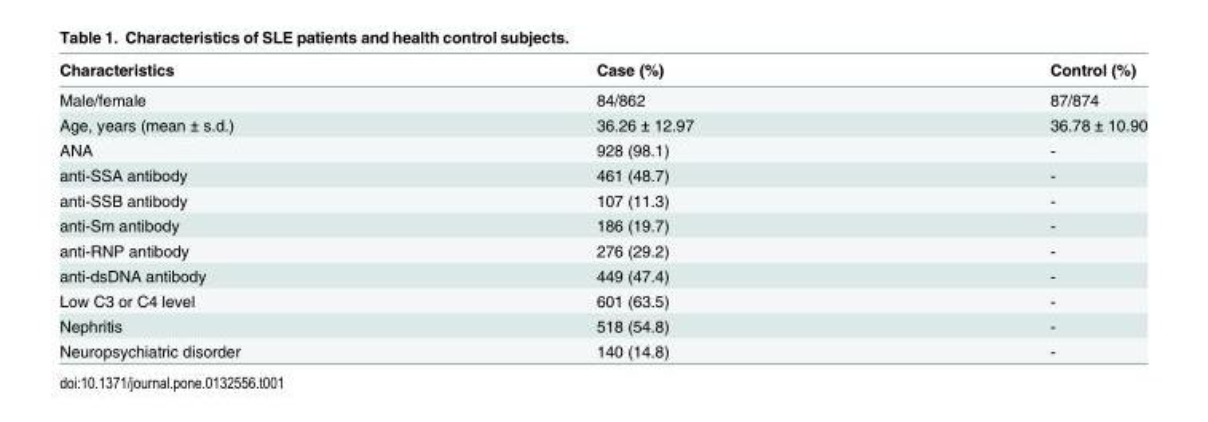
<table><thead><tr><td>Characteristics</td><td>Case (%)</td><td>Control (%)</td></tr></thead><tbody><tr><td>Male/female</td><td>84/862</td><td>87/874</td></tr><tr><td>Age, years (mean ± s.d.)</td><td>36.26 ± 12.97</td><td>36.78 ± 10.90</td></tr><tr><td>ANA</td><td>928 (98.1)</td><td>-</td></tr><tr><td>anti-SSA antibody</td><td>461 (48.7)</td><td>-</td></tr><tr><td>anti-SSB antibody</td><td>107 (11.3)</td><td>-</td></tr><tr><td>anti-Sm antibody</td><td>186 (19.7)</td><td>-</td></tr><tr><td>anti-RNP antibody</td><td>276 (29.2)</td><td>-</td></tr><tr><td>anti-dsDNA antibody</td><td>449 (47.4)</td><td>-</td></tr><tr><td>Low C3 or C4 level</td><td>601 (63.5)</td><td>-</td></tr><tr><td>Nephritis</td><td>518 (54.8)</td><td>-</td></tr><tr><td>Neuropsychiatric disorder</td><td>140 (14.8)</td><td>-</td></tr></tbody></table>